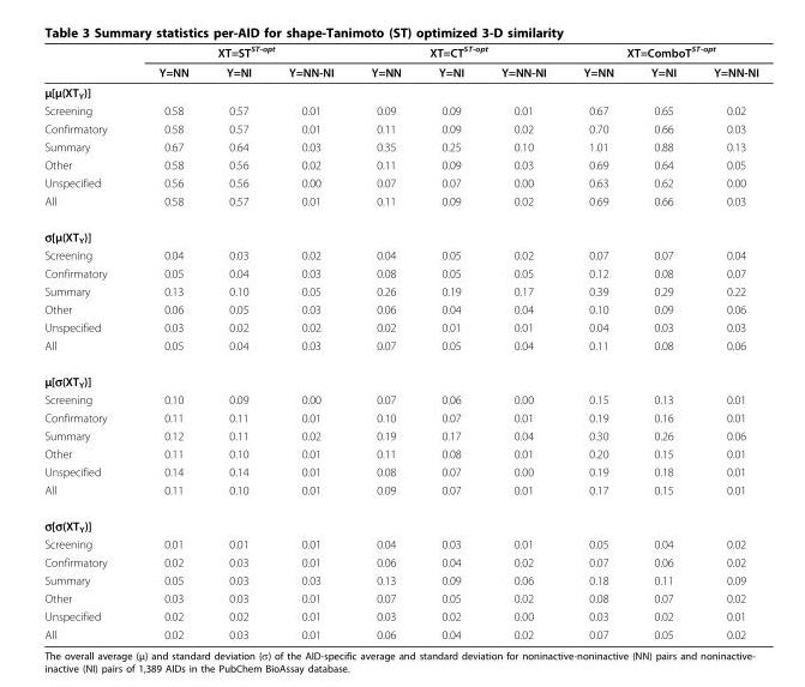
<table><thead><tr><td rowspan="2"></td><td colspan="3">XT=ST<sup>ST-opt</sup></td><td colspan="3">XT=CT<sup>ST-opt</sup></td><td colspan="3">XT=ComboT<sup>ST-opt</sup></td></tr><tr><td>Y=NN</td><td>Y=NI</td><td>Y=NN-NI</td><td>Y=NN</td><td>Y=NI</td><td>Y=NN-NI</td><td>Y=NN</td><td>Y=NI</td><td>Y=NN-NI</td></tr></thead><tbody><tr><td colspan="10">μ[μ(XT<sub>Y</sub>)]</td></tr><tr><td>Screening</td><td>0.58</td><td>0.57</td><td>0.01</td><td>0.09</td><td>0.09</td><td>0.01</td><td>0.67</td><td>0.65</td><td>0.02</td></tr><tr><td>Confirmatory</td><td>0.58</td><td>0.57</td><td>0.01</td><td>0.11</td><td>0.09</td><td>0.02</td><td>0.70</td><td>0.66</td><td>0.03</td></tr><tr><td>Summary</td><td>0.67</td><td>0.64</td><td>0.03</td><td>0.35</td><td>0.25</td><td>0.10</td><td>1.01</td><td>0.88</td><td>0.13</td></tr><tr><td>Other</td><td>0.58</td><td>0.56</td><td>0.02</td><td>0.11</td><td>0.09</td><td>0.03</td><td>0.69</td><td>0.64</td><td>0.05</td></tr><tr><td>Unspecified</td><td>0.56</td><td>0.56</td><td>0.00</td><td>0.07</td><td>0.07</td><td>0.00</td><td>0.63</td><td>0.62</td><td>0.00</td></tr><tr><td>All</td><td>0.58</td><td>0.57</td><td>0.01</td><td>0.11</td><td>0.09</td><td>0.02</td><td>0.69</td><td>0.66</td><td>0.03</td></tr><tr><td colspan="10">σ[μ(XT<sub>Y</sub>)]</td></tr><tr><td>Screening</td><td>0.04</td><td>0.03</td><td>0.02</td><td>0.04</td><td>0.05</td><td>0.02</td><td>0.07</td><td>0.07</td><td>0.04</td></tr><tr><td>Confirmatory</td><td>0.05</td><td>0.04</td><td>0.03</td><td>0.08</td><td>0.05</td><td>0.05</td><td>0.12</td><td>0.08</td><td>0.07</td></tr><tr><td>Summary</td><td>0.13</td><td>0.10</td><td>0.05</td><td>0.26</td><td>0.19</td><td>0.17</td><td>0.39</td><td>0.29</td><td>0.22</td></tr><tr><td>Other</td><td>0.06</td><td>0.05</td><td>0.03</td><td>0.06</td><td>0.04</td><td>0.04</td><td>0.10</td><td>0.09</td><td>0.06</td></tr><tr><td>Unspecified</td><td>0.03</td><td>0.02</td><td>0.02</td><td>0.02</td><td>0.01</td><td>0.01</td><td>0.04</td><td>0.03</td><td>0.03</td></tr><tr><td>All</td><td>0.05</td><td>0.04</td><td>0.03</td><td>0.07</td><td>0.05</td><td>0.04</td><td>0.11</td><td>0.08</td><td>0.06</td></tr><tr><td colspan="10">μ[σ(XT<sub>Y</sub>)]</td></tr><tr><td>Screening</td><td>0.10</td><td>0.09</td><td>0.00</td><td>0.07</td><td>0.06</td><td>0.00</td><td>0.15</td><td>0.13</td><td>0.01</td></tr><tr><td>Confirmatory</td><td>0.11</td><td>0.11</td><td>0.01</td><td>0.10</td><td>0.07</td><td>0.01</td><td>0.19</td><td>0.16</td><td>0.01</td></tr><tr><td>Summary</td><td>0.12</td><td>0.11</td><td>0.02</td><td>0.19</td><td>0.17</td><td>0.04</td><td>0.30</td><td>0.26</td><td>0.06</td></tr><tr><td>Other</td><td>0.11</td><td>0.10</td><td>0.01</td><td>0.11</td><td>0.08</td><td>0.01</td><td>0.20</td><td>0.15</td><td>0.01</td></tr><tr><td>Unspecified</td><td>0.14</td><td>0.14</td><td>0.01</td><td>0.08</td><td>0.07</td><td>0.00</td><td>0.19</td><td>0.18</td><td>0.01</td></tr><tr><td>All</td><td>0.11</td><td>0.10</td><td>0.01</td><td>0.09</td><td>0.07</td><td>0.01</td><td>0.17</td><td>0.15</td><td>0.01</td></tr><tr><td colspan="10">σ[σ(XT<sub>Y</sub>)]</td></tr><tr><td>Screening</td><td>0.01</td><td>0.01</td><td>0.01</td><td>0.04</td><td>0.03</td><td>0.01</td><td>0.05</td><td>0.04</td><td>0.02</td></tr><tr><td>Confirmatory</td><td>0.02</td><td>0.03</td><td>0.01</td><td>0.06</td><td>0.04</td><td>0.02</td><td>0.07</td><td>0.06</td><td>0.02</td></tr><tr><td>Summary</td><td>0.05</td><td>0.03</td><td>0.03</td><td>0.13</td><td>0.09</td><td>0.06</td><td>0.18</td><td>0.11</td><td>0.09</td></tr><tr><td>Other</td><td>0.03</td><td>0.03</td><td>0.01</td><td>0.07</td><td>0.05</td><td>0.02</td><td>0.08</td><td>0.07</td><td>0.02</td></tr><tr><td>Unspecified</td><td>0.02</td><td>0.02</td><td>0.01</td><td>0.03</td><td>0.02</td><td>0.00</td><td>0.03</td><td>0.02</td><td>0.01</td></tr><tr><td>All</td><td>0.02</td><td>0.03</td><td>0.01</td><td>0.06</td><td>0.04</td><td>0.02</td><td>0.07</td><td>0.05</td><td>0.02</td></tr></tbody></table>